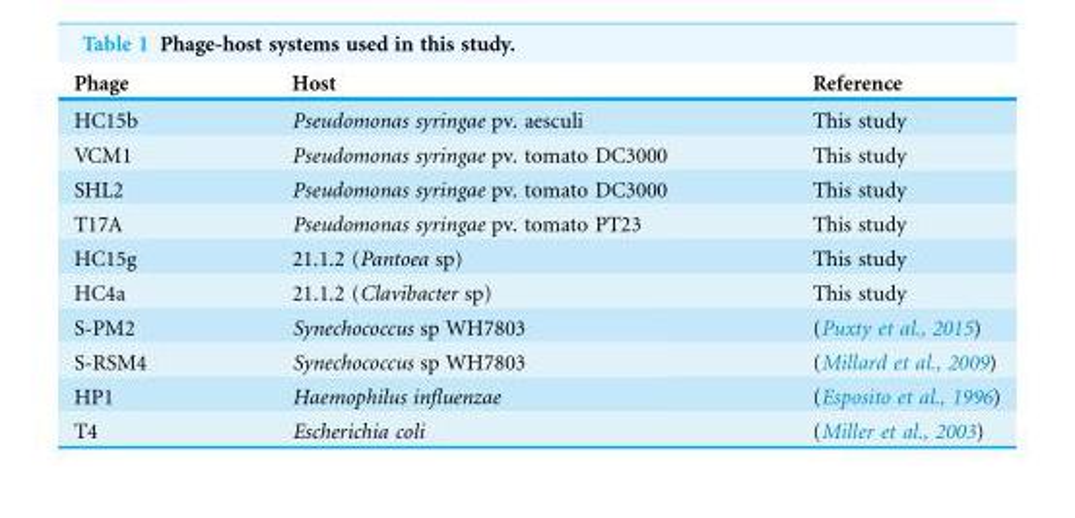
<table><thead><tr><td>Phage</td><td>Host</td><td>Reference</td></tr></thead><tbody><tr><td>HC15b</td><td>Pseudomonas syringae pv. aesculi</td><td>This study</td></tr><tr><td>VCM1</td><td>Pseudomonas syringae pv. tomato DC3000</td><td>This study</td></tr><tr><td>SHL2</td><td>Pseudomonas syringae pv. tomato DC3000</td><td>This study</td></tr><tr><td>T17A</td><td>Pseudomonas syringae pv. tomato PT23</td><td>This study</td></tr><tr><td>HC15g</td><td>21.1.2 (Pantoea sp)</td><td>This study</td></tr><tr><td>HC4a</td><td>21.1.2 (Clavibacter sp)</td><td>This study</td></tr><tr><td>S-PM2</td><td>Synechococcus sp WH7803</td><td>(Puxty et al., 2015)</td></tr><tr><td>S-RSM4</td><td>Synechococcus sp WH7803</td><td>(Millard et al., 2009)</td></tr><tr><td>HP1</td><td>Haemophilus influenzae</td><td>(Esposito et al., 1996)</td></tr><tr><td>T4</td><td>Escherichia coli</td><td>(Miller et al., 2003)</td></tr></tbody></table>